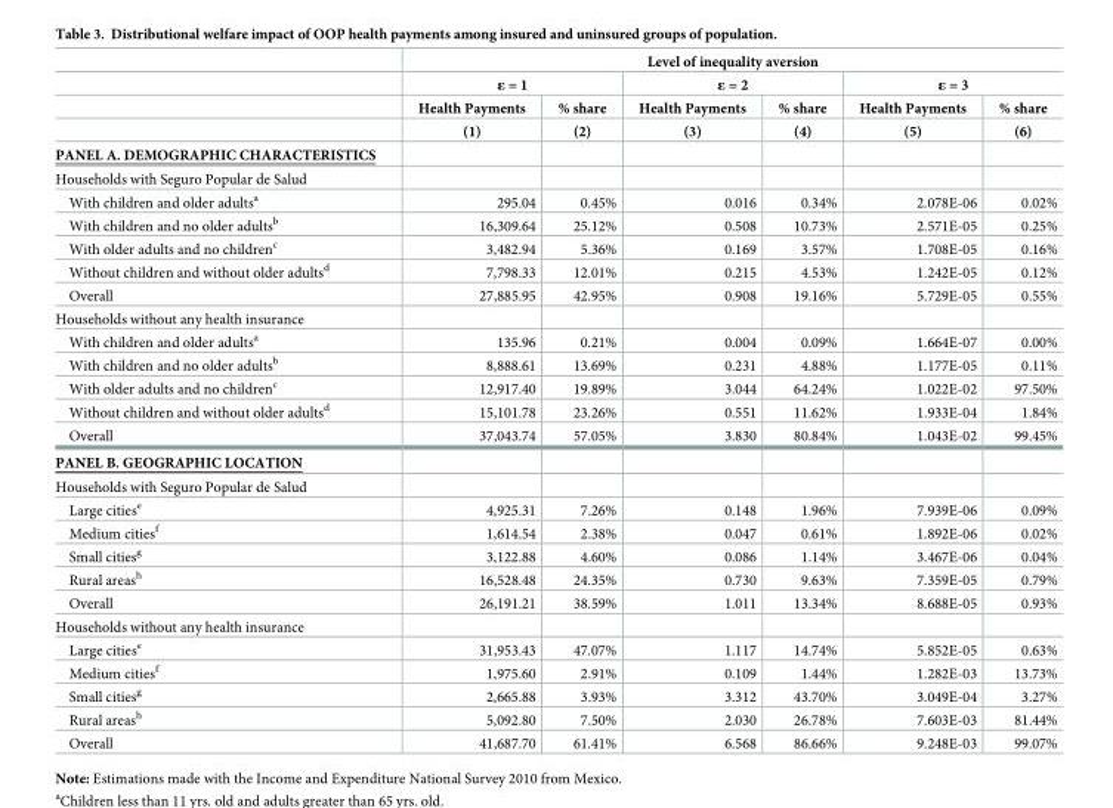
<table><thead><tr><td rowspan="4"></td><td colspan="6">Level of inequality aversion</td></tr><tr><td colspan="2">ε = 1</td><td colspan="2">ε = 2</td><td colspan="2">ε = 3</td></tr><tr><td rowspan="2">Health Payments (1)</td><td rowspan="2">% share (2)</td><td rowspan="2">Health Payments (3)</td><td rowspan="2">% share (4)</td><td rowspan="2">Health Payments (5)</td><td rowspan="2">% share (6)</td></tr><tr></tr></thead><tbody><tr><td colspan="7">PANEL A. DEMOGRAPHIC CHARACTERISTICS</td></tr><tr><td colspan="7">Households with Seguro Popular de Salud</td></tr><tr><td>With children and older adults<sup>a</sup></td><td>295.04</td><td>0.45%</td><td>0.016</td><td>0.34%</td><td>2.078E-06</td><td>0.02%</td></tr><tr><td>With children and no older adults<sup>b</sup></td><td>16,309.64</td><td>25.12%</td><td>0.508</td><td>10.73%</td><td>2.571E-05</td><td>0.25%</td></tr><tr><td>With older adults and no children<sup>c</sup></td><td>3,482.94</td><td>5.36%</td><td>0.169</td><td>3.57%</td><td>1.708E-05</td><td>0.16%</td></tr><tr><td>Without children and without older adults<sup>d</sup></td><td>7,798.33</td><td>12.01%</td><td>0.215</td><td>4.53%</td><td>1.242E-05</td><td>0.12%</td></tr><tr><td>Overall</td><td>27,885.95</td><td>42.95%</td><td>0.908</td><td>19.16%</td><td>5.729E-05</td><td>0.55%</td></tr><tr><td colspan="7">Households without any health insurance</td></tr><tr><td>With children and older adults<sup>a</sup></td><td>135.96</td><td>0.21%</td><td>0.004</td><td>0.09%</td><td>1.664E-07</td><td>0.00%</td></tr><tr><td>With children and no older adults<sup>b</sup></td><td>8,888.61</td><td>13.69%</td><td>0.231</td><td>4.88%</td><td>1.177E-05</td><td>0.11%</td></tr><tr><td>With older adults and no children<sup>c</sup></td><td>12,917.40</td><td>19.89%</td><td>3.044</td><td>64.24%</td><td>1.022E-02</td><td>97.50%</td></tr><tr><td>Without children and without older adults<sup>d</sup></td><td>15,101.78</td><td>23.26%</td><td>0.551</td><td>11.62%</td><td>1.933E-04</td><td>1.84%</td></tr><tr><td>Overall</td><td>37,043.74</td><td>57.05%</td><td>3.830</td><td>80.84%</td><td>1.043E-02</td><td>99.45%</td></tr><tr><td colspan="7">PANEL B. GEOGRAPHIC LOCATION</td></tr><tr><td colspan="7">Households with Seguro Popular de Salud</td></tr><tr><td>Large cities<sup>e</sup></td><td>4,925.31</td><td>7.26%</td><td>0.148</td><td>1.96%</td><td>7.939E-06</td><td>0.09%</td></tr><tr><td>Medium cities<sup>f</sup></td><td>1,614.54</td><td>2.38%</td><td>0.047</td><td>0.61%</td><td>1.892E-06</td><td>0.02%</td></tr><tr><td>Small cities<sup>g</sup></td><td>3,122.88</td><td>4.60%</td><td>0.086</td><td>1.14%</td><td>3.467E-06</td><td>0.04%</td></tr><tr><td>Rural areas<sup>h</sup></td><td>16,528.48</td><td>24.35%</td><td>0.730</td><td>9.63%</td><td>7.359E-05</td><td>0.79%</td></tr><tr><td>Overall</td><td>26,191.21</td><td>38.59%</td><td>1.011</td><td>13.34%</td><td>8.688E-05</td><td>0.93%</td></tr><tr><td colspan="7">Households without any health insurance</td></tr><tr><td>Large cities<sup>e</sup></td><td>31,953.43</td><td>47.07%</td><td>1.117</td><td>14.74%</td><td>5.852E-05</td><td>0.63%</td></tr><tr><td>Medium cities<sup>f</sup></td><td>1,975.60</td><td>2.91%</td><td>0.109</td><td>1.44%</td><td>1.282E-03</td><td>13.73%</td></tr><tr><td>Small cities<sup>g</sup></td><td>2,665.88</td><td>3.93%</td><td>3.312</td><td>43.70%</td><td>3.049E-04</td><td>3.27%</td></tr><tr><td>Rural areas<sup>h</sup></td><td>5,092.80</td><td>7.50%</td><td>2.030</td><td>26.78%</td><td>7.603E-03</td><td>81.44%</td></tr><tr><td>Overall</td><td>41,687.70</td><td>61.41%</td><td>6.568</td><td>86.66%</td><td>9.248E-03</td><td>99.07%</td></tr></tbody></table>